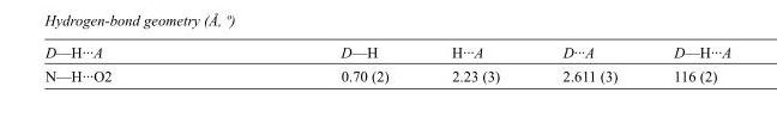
<table><tbody><tr><td>D—H···A</td><td>D—H</td><td>H···A</td><td>D···A</td><td>D—H···A</td></tr><tr><td>N—H···O2</td><td>0.70 (2)</td><td>2.23 (3)</td><td>2.611 (3)</td><td>116 (2)</td></tr></tbody></table>